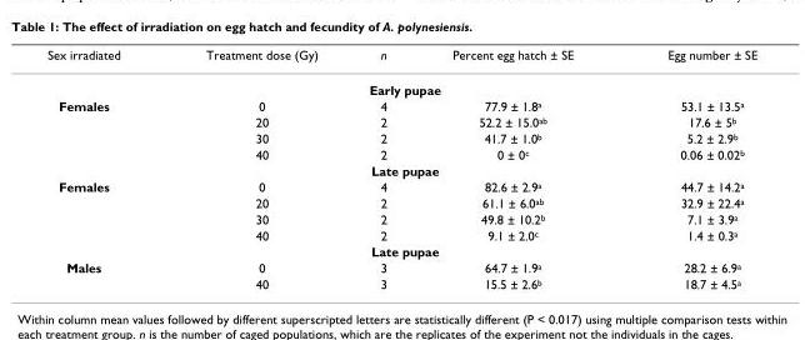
<table><thead><tr><td>Sex irradiated</td><td>Treatment dose (Gy)</td><td>n</td><td>Percent egg hatch ± SE</td><td>Egg number ± SE</td></tr></thead><tbody><tr><td colspan="5">Early pupae</td></tr><tr><td rowspan="4">Females</td><td>0</td><td>4</td><td>77.9 ± 1.8<sup>a</sup></td><td>53.1 ± 13.5<sup>a</sup></td></tr><tr><td>20</td><td>2</td><td>52.2 ± 15.0<sup>ab</sup></td><td>17.6 ± 5<sup>b</sup></td></tr><tr><td>30</td><td>2</td><td>41.7 ± 1.0<sup>b</sup></td><td>5.2 ± 2.9<sup>b</sup></td></tr><tr><td>40</td><td>2</td><td>0 ± 0<sup>c</sup></td><td>0.06 ± 0.02<sup>b</sup></td></tr><tr><td colspan="5">Late pupae</td></tr><tr><td rowspan="4">Females</td><td>0</td><td>4</td><td>82.6 ± 2.9<sup>a</sup></td><td>44.7 ± 14.2<sup>a</sup></td></tr><tr><td>20</td><td>2</td><td>61.1 ± 6.0<sup>ab</sup></td><td>32.9 ± 22.4<sup>a</sup></td></tr><tr><td>30</td><td>2</td><td>49.8 ± 10.2<sup>b</sup></td><td>7.1 ± 3.9<sup>a</sup></td></tr><tr><td>40</td><td>2</td><td>9.1 ± 2.0<sup>c</sup></td><td>1.4 ± 0.3<sup>a</sup></td></tr><tr><td colspan="5">Late pupae</td></tr><tr><td rowspan="2">Males</td><td>0</td><td>3</td><td>64.7 ± 1.9<sup>a</sup></td><td>28.2 ± 6.9<sup>a</sup></td></tr><tr><td>40</td><td>3</td><td>15.5 ± 2.6<sup>b</sup></td><td>18.7 ± 4.5<sup>a</sup></td></tr></tbody></table>